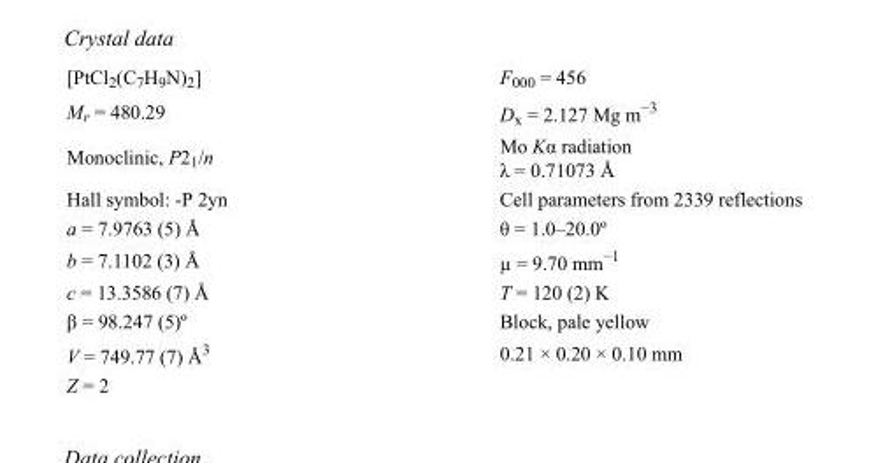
<table><tbody><tr><td>[PtCl<sub>2</sub>(C<sub>7</sub>H<sub>9</sub>N)<sub>2</sub>]</td><td>F000 = 456</td></tr><tr><td>M<sub>r</sub> = 480.29</td><td>D<sub>x</sub> = 2.127 Mg m<sup>−3</sup></td></tr><tr><td>Monoclinic, P2<sub>1</sub>/n</td><td>Mo Kα radiation λ = 0.71073 Å</td></tr><tr><td>Hall symbol: -P 2yn</td><td>Cell parameters from 2339 reflections</td></tr><tr><td>a = 7.9763 (5) Å</td><td>θ = 1.0–20.0º</td></tr><tr><td>b = 7.1102 (3) Å</td><td>µ = 9.70 mm<sup>−1</sup></td></tr><tr><td>c = 13.3586 (7) Å</td><td>T = 120 (2) K</td></tr><tr><td>β = 98.247 (5)º</td><td>Block, pale yellow</td></tr><tr><td>V = 749.77 (7) Å<sup>3</sup></td><td>0.21 × 0.20 × 0.10 mm</td></tr><tr><td>Z = 2</td><td></td></tr></tbody></table>